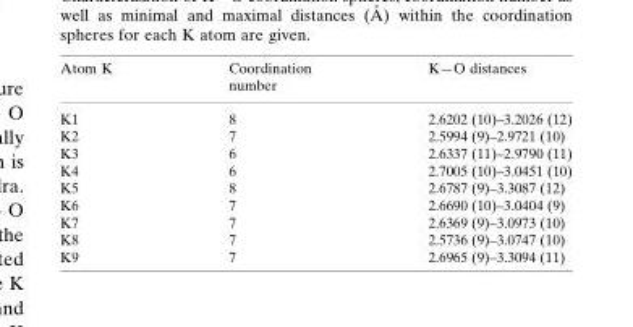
<table><thead><tr><td>Atom K</td><td>Coordination number</td><td>K—O distances</td></tr></thead><tbody><tr><td>K1</td><td>8</td><td>2.6202 (10)–3.2026 (12)</td></tr><tr><td>K2</td><td>7</td><td>2.5994 (9)–2.9721 (10)</td></tr><tr><td>K3</td><td>6</td><td>2.6337 (11)–2.9790 (11)</td></tr><tr><td>K4</td><td>6</td><td>2.7005 (10)–3.0451 (10)</td></tr><tr><td>K5</td><td>8</td><td>2.6787 (9)–3.3087 (12)</td></tr><tr><td>K6</td><td>7</td><td>2.6690 (10)–3.0404 (9)</td></tr><tr><td>K7</td><td>7</td><td>2.6369 (9)–3.0973 (10)</td></tr><tr><td>K8</td><td>7</td><td>2.5736 (9)–3.0747 (10)</td></tr><tr><td>K9</td><td>7</td><td>2.6965 (9)–3.3094 (11)</td></tr></tbody></table>